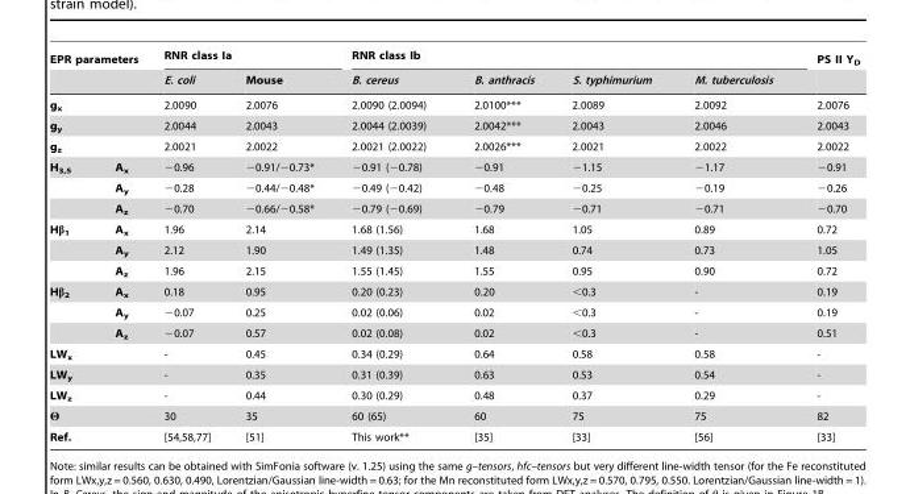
<table><thead><tr><td colspan="2">EPR parameters</td><td colspan="2">RNR class Ia</td><td colspan="4">RNR class Ib</td><td rowspan="2">PS II Y<sub>D</sub></td></tr><tr><td></td><td></td><td>E. coli</td><td>Mouse</td><td>B. cereus</td><td>B. anthracis</td><td>S. typhimurium</td><td>M. tuberculosis</td></tr></thead><tbody><tr><td colspan="2">g<sub>x</sub></td><td>2.0090</td><td>2.0076</td><td>2.0090 (2.0094)</td><td>2.0100***</td><td>2.0089</td><td>2.0092</td><td>2.0076</td></tr><tr><td colspan="2">g<sub>y</sub></td><td>2.0044</td><td>2.0043</td><td>2.0044 (2.0039)</td><td>2.0042***</td><td>2.0043</td><td>2.0046</td><td>2.0043</td></tr><tr><td colspan="2">g<sub>z</sub></td><td>2.0021</td><td>2.0022</td><td>2.0021 (2.0022)</td><td>2.0026***</td><td>2.0021</td><td>2.0022</td><td>2.0022</td></tr><tr><td rowspan="3">H<sub>3,5</sub></td><td>A<sub>x</sub></td><td>−0.96</td><td>−0.91/−0.73*</td><td>−0.91 (−0.78)</td><td>−0.91</td><td>−1.15</td><td>−1.17</td><td>−0.91</td></tr><tr><td>A<sub>y</sub></td><td>−0.28</td><td>−0.44/−0.48*</td><td>−0.49 (−0.42)</td><td>−0.48</td><td>−0.25</td><td>−0.19</td><td>−0.26</td></tr><tr><td>A<sub>z</sub></td><td>−0.70</td><td>−0.66/−0.58*</td><td>−0.79 (−0.69)</td><td>−0.79</td><td>−0.71</td><td>−0.71</td><td>−0.70</td></tr><tr><td rowspan="3">Hβ<sub>1</sub></td><td>A<sub>x</sub></td><td>1.96</td><td>2.14</td><td>1.68 (1.56)</td><td>1.68</td><td>1.05</td><td>0.89</td><td>0.72</td></tr><tr><td>A<sub>y</sub></td><td>2.12</td><td>1.90</td><td>1.49 (1.35)</td><td>1.48</td><td>0.74</td><td>0.73</td><td>1.05</td></tr><tr><td>A<sub>z</sub></td><td>1.96</td><td>2.15</td><td>1.55 (1.45)</td><td>1.55</td><td>0.95</td><td>0.90</td><td>0.72</td></tr><tr><td rowspan="3">Hβ<sub>2</sub></td><td>A<sub>x</sub></td><td>0.18</td><td>0.95</td><td>0.20 (0.23)</td><td>0.20</td><td>&lt;0.3</td><td>-</td><td>0.19</td></tr><tr><td>A<sub>y</sub></td><td>−0.07</td><td>0.25</td><td>0.02 (0.06)</td><td>0.02</td><td>&lt;0.3</td><td>-</td><td>0.19</td></tr><tr><td>A<sub>z</sub></td><td>−0.07</td><td>0.57</td><td>0.02 (0.08)</td><td>0.02</td><td>&lt;0.3</td><td>-</td><td>0.51</td></tr><tr><td colspan="2">LW<sub>x</sub></td><td>-</td><td>0.45</td><td>0.34 (0.29)</td><td>0.64</td><td>0.58</td><td>0.58</td><td>-</td></tr><tr><td colspan="2">LW<sub>y</sub></td><td>-</td><td>0.35</td><td>0.31 (0.39)</td><td>0.63</td><td>0.53</td><td>0.54</td><td>-</td></tr><tr><td colspan="2">LW<sub>z</sub></td><td>-</td><td>0.44</td><td>0.30 (0.29)</td><td>0.48</td><td>0.37</td><td>0.29</td><td>-</td></tr><tr><td colspan="2">Θ</td><td>30</td><td>35</td><td>60 (65)</td><td>60</td><td>75</td><td>75</td><td>82</td></tr><tr><td colspan="2">Ref.</td><td>[54,58,77]</td><td>[51]</td><td>This work**</td><td>[35]</td><td>[33]</td><td>[56]</td><td>[33]</td></tr></tbody></table>